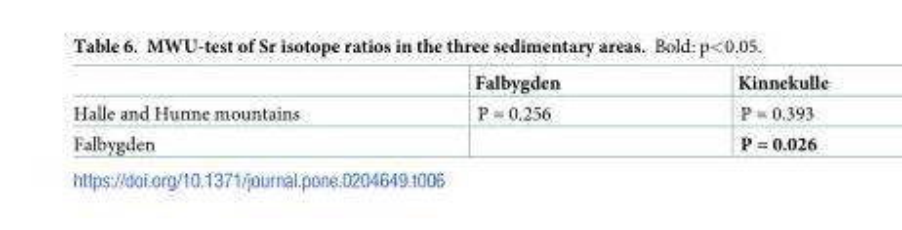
<table><thead><tr><td></td><td>Falbygden</td><td>Kinnekulle</td></tr></thead><tbody><tr><td>Halle and Hunne mountains</td><td>P = 0.256</td><td>P = 0.393</td></tr><tr><td>Falbygden</td><td></td><td>P = 0.026</td></tr></tbody></table>